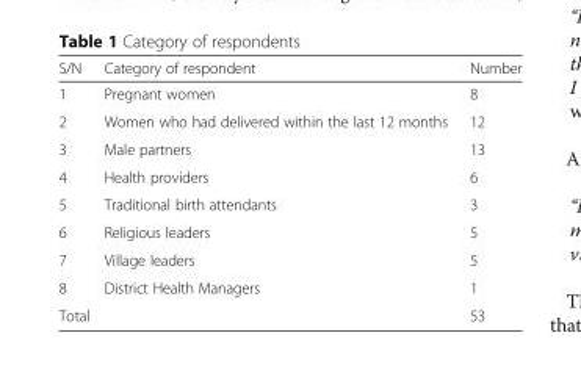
<table><thead><tr><td>S/N</td><td>Category of respondent</td><td>Number</td></tr></thead><tbody><tr><td>1</td><td>Pregnant women</td><td>8</td></tr><tr><td>2</td><td>Women who had delivered within the last 12 months</td><td>12</td></tr><tr><td>3</td><td>Male partners</td><td>13</td></tr><tr><td>4</td><td>Health providers</td><td>6</td></tr><tr><td>5</td><td>Traditional birth attendants</td><td>3</td></tr><tr><td>6</td><td>Religious leaders</td><td>5</td></tr><tr><td>7</td><td>Village leaders</td><td>5</td></tr><tr><td>8</td><td>District Health Managers</td><td>1</td></tr><tr><td colspan="2">Total</td><td>53</td></tr></tbody></table>